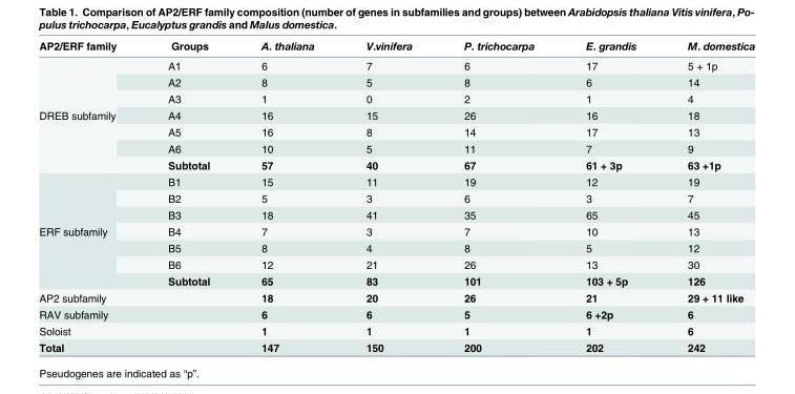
<table><thead><tr><td>AP2/ERF family</td><td>Groups</td><td>A. thaliana</td><td>V.vinifera</td><td>P. trichocarpa</td><td>E. grandis</td><td>M. domestica</td></tr></thead><tbody><tr><td rowspan="7">DREB subfamily</td><td>A1</td><td>6</td><td>7</td><td>6</td><td>17</td><td>5 + 1p</td></tr><tr><td>A2</td><td>8</td><td>5</td><td>8</td><td>6</td><td>14</td></tr><tr><td>A3</td><td>1</td><td>0</td><td>2</td><td>1</td><td>4</td></tr><tr><td>A4</td><td>16</td><td>15</td><td>26</td><td>16</td><td>18</td></tr><tr><td>A5</td><td>16</td><td>8</td><td>14</td><td>17</td><td>13</td></tr><tr><td>A6</td><td>10</td><td>5</td><td>11</td><td>7</td><td>9</td></tr><tr><td>Subtotal</td><td>57</td><td>40</td><td>67</td><td>61 + 3p</td><td>63 +1p</td></tr><tr><td rowspan="7">ERF subfamily</td><td>B1</td><td>15</td><td>11</td><td>19</td><td>12</td><td>19</td></tr><tr><td>B2</td><td>5</td><td>3</td><td>6</td><td>3</td><td>7</td></tr><tr><td>B3</td><td>18</td><td>41</td><td>35</td><td>65</td><td>45</td></tr><tr><td>B4</td><td>7</td><td>3</td><td>7</td><td>10</td><td>13</td></tr><tr><td>B5</td><td>8</td><td>4</td><td>8</td><td>5</td><td>12</td></tr><tr><td>B6</td><td>12</td><td>21</td><td>26</td><td>13</td><td>30</td></tr><tr><td>Subtotal</td><td>65</td><td>83</td><td>101</td><td>103 + 5p</td><td>126</td></tr><tr><td>AP2 subfamily</td><td></td><td>18</td><td>20</td><td>26</td><td>21</td><td>29 + 11 like</td></tr><tr><td>RAV subfamily</td><td></td><td>6</td><td>6</td><td>5</td><td>6 +2p</td><td>6</td></tr><tr><td>Soloist</td><td></td><td>1</td><td>1</td><td>1</td><td>1</td><td>6</td></tr><tr><td>Total</td><td></td><td>147</td><td>150</td><td>200</td><td>202</td><td>242</td></tr></tbody></table>